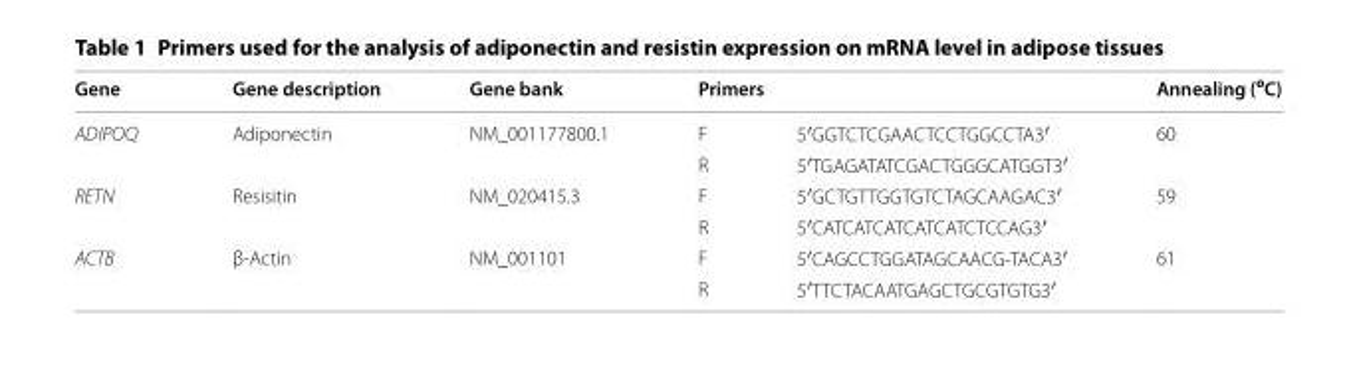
<table><thead><tr><td rowspan="2">Gene ADIPOQ</td><td rowspan="2">Gene description Adiponectin</td><td rowspan="2">Gene bank NM_001177800.1</td><td colspan="2">Primers</td><td rowspan="2">Annealing (<sup>o</sup>C) 60</td></tr><tr><td>F</td><td>5′GGTCTCGAACTCCTGGCCTA3′</td></tr></thead><tbody><tr><td></td><td></td><td></td><td>R</td><td>5′TGAGATATCGACTGGGCATGGT3′</td><td></td></tr><tr><td rowspan="2">RETN</td><td>Resisitin</td><td>NM_020415.3</td><td>F</td><td>5′GCTGTTGGTGTCTAGCAAGAC3′</td><td>59</td></tr><tr><td></td><td></td><td>R</td><td>5′CATCATCATCATCATCTCCAG3′</td><td></td></tr><tr><td rowspan="2">ACTB</td><td>β‑Actin</td><td>NM_001101</td><td>F</td><td>5′CAGCCTGGATAGCAACG‑TACA3′</td><td>61</td></tr><tr><td></td><td></td><td>R</td><td>5′TTCTACAATGAGCTGCGTGTG3′</td><td></td></tr></tbody></table>